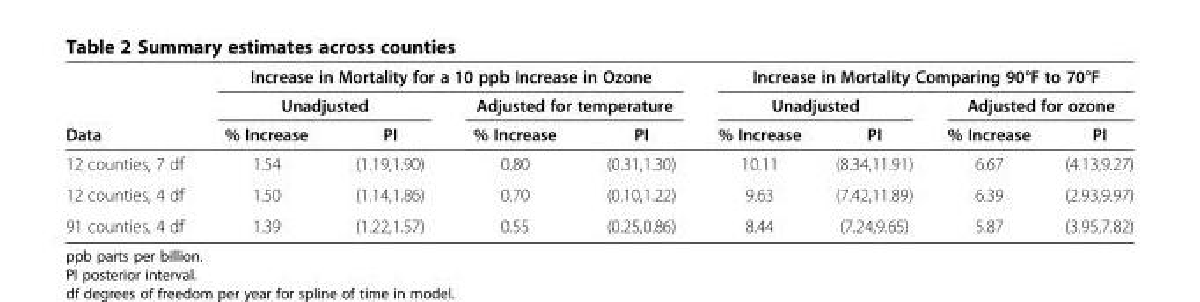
<table><thead><tr><td rowspan="3">Data</td><td colspan="4">Increase in Mortality for a 10 ppb Increase in Ozone</td><td colspan="4">Increase in Mortality Comparing 90°F to 70°F</td></tr><tr><td colspan="2">Unadjusted</td><td colspan="2">Adjusted for temperature</td><td colspan="2">Unadjusted</td><td colspan="2">Adjusted for ozone</td></tr><tr><td>% Increase</td><td>PI</td><td>% Increase</td><td>PI</td><td>% Increase</td><td>PI</td><td>% Increase</td><td>PI</td></tr></thead><tbody><tr><td>12 counties, 7 df</td><td>1.54</td><td>(1.19,1.90)</td><td>0.80</td><td>(0.31,1.30)</td><td>10.11</td><td>(8.34,11.91)</td><td>6.67</td><td>(4.13,9.27)</td></tr><tr><td>12 counties, 4 df</td><td>1.50</td><td>(1.14,1.86)</td><td>0.70</td><td>(0.10,1.22)</td><td>9.63</td><td>(7.42,11.89)</td><td>6.39</td><td>(2.93,9.97)</td></tr><tr><td>91 counties, 4 df</td><td>1.39</td><td>(1.22,1.57)</td><td>0.55</td><td>(0.25,0.86)</td><td>8.44</td><td>(7.24,9.65)</td><td>5.87</td><td>(3.95,7.82)</td></tr></tbody></table>